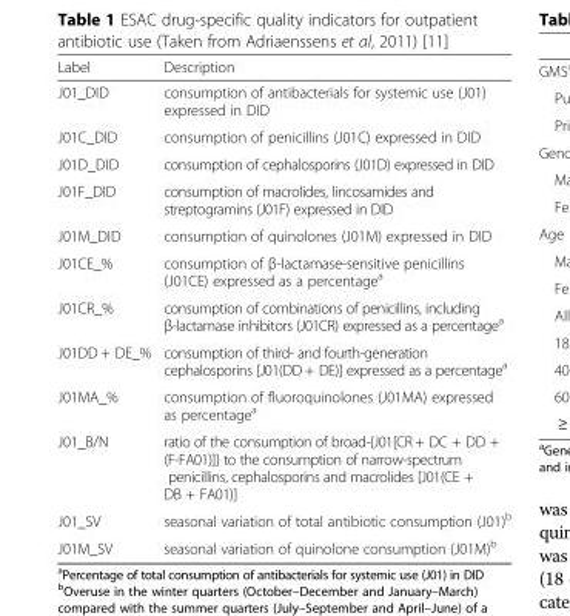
<table><thead><tr><td>Label</td><td>Description</td></tr></thead><tbody><tr><td>J01_DID</td><td>consumption of antibacterials for systemic use (J01) expressed in DID</td></tr><tr><td>J01C_DID</td><td>consumption of penicillins (J01C) expressed in DID</td></tr><tr><td>J01D_DID</td><td>consumption of cephalosporins (J01D) expressed in DID</td></tr><tr><td>J01F_DID</td><td>consumption of macrolides, lincosamides and streptogramins (J01F) expressed in DID</td></tr><tr><td>J01M_DID</td><td>consumption of quinolones (J01M) expressed in DID</td></tr><tr><td>J01CE_%</td><td>consumption of β-lactamase-sensitive penicillins (J01CE) expressed as a percentage<sup>a</sup></td></tr><tr><td>J01CR_%</td><td>consumption of combinations of penicillins, including β-lactamase inhibitors (J01CR) expressed as a percentage<sup>a</sup></td></tr><tr><td>J01DD + DE_%</td><td>consumption of third- and fourth-generation cephalosporins [J01(DD + DE)] expressed as a percentage<sup>a</sup></td></tr><tr><td>J01MA_%</td><td>consumption of fluoroquinolones (J01MA) expressed as percentage<sup>a</sup></td></tr><tr><td>J01_B/N</td><td>ratio of the consumption of broad-{J01[CR + DC + DD + (F-FA01)]} to the consumption of narrow-spectrum penicillins, cephalosporins and macrolides [J01(CE + DB + FA01)]</td></tr><tr><td>J01_SV</td><td>seasonal variation of total antibiotic consumption (J01)<sup>b</sup></td></tr><tr><td>J01M_SV</td><td>seasonal variation of quinolone consumption (J01M)<sup>b</sup></td></tr></tbody></table>